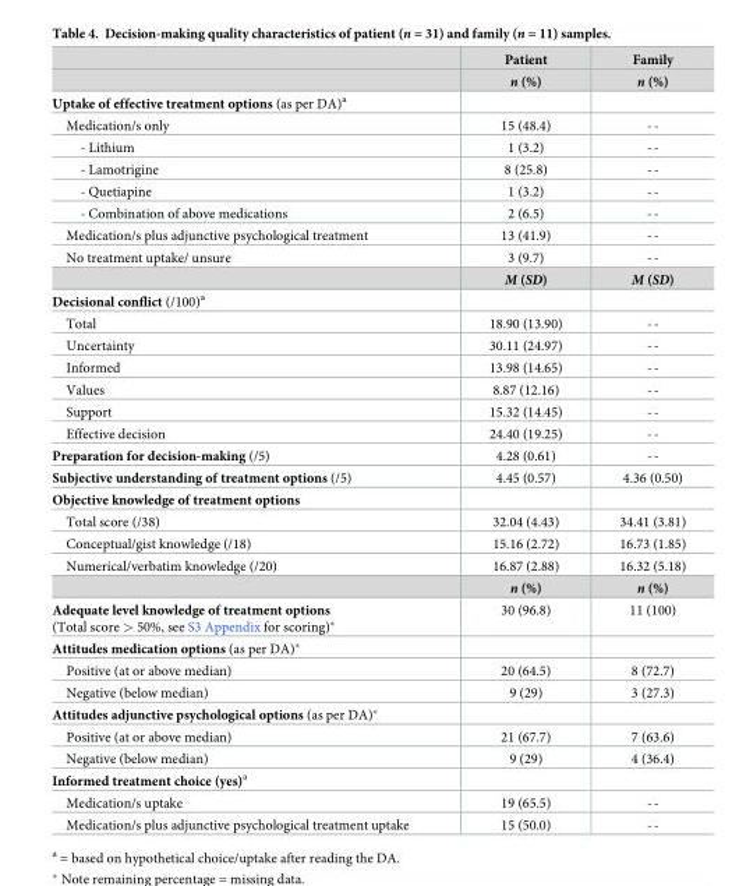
<table><thead><tr><td></td><td>Patient</td><td>Family</td></tr></thead><tbody><tr><td></td><td>n (%)</td><td>n (%)</td></tr><tr><td colspan="3">Uptake of effective treatment options (as per DA)<sup>a</sup></td></tr><tr><td>Medication/s only</td><td>15 (48.4)</td><td>--</td></tr><tr><td>- Lithium</td><td>1 (3.2)</td><td>--</td></tr><tr><td>- Lamotrigine</td><td>8 (25.8)</td><td>--</td></tr><tr><td>- Quetiapine</td><td>1 (3.2)</td><td>--</td></tr><tr><td>- Combination of above medications</td><td>2 (6.5)</td><td>--</td></tr><tr><td>Medication/s plus adjunctive psychological treatment</td><td>13 (41.9)</td><td>--</td></tr><tr><td rowspan="2">No treatment uptake/ unsure</td><td>3 (9.7)</td><td>--</td></tr><tr><td>M (SD)</td><td>M (SD)</td></tr><tr><td colspan="3">Decisional conflict (/100)<sup>a</sup></td></tr><tr><td>Total</td><td>18.90 (13.90)</td><td>--</td></tr><tr><td>Uncertainty</td><td>30.11 (24.97)</td><td>--</td></tr><tr><td>Informed</td><td>13.98 (14.65)</td><td>--</td></tr><tr><td>Values</td><td>8.87 (12.16)</td><td>--</td></tr><tr><td>Support</td><td>15.32 (14.45)</td><td>--</td></tr><tr><td>Effective decision</td><td>24.40 (19.25)</td><td>--</td></tr><tr><td>Preparation for decision-making (/5)</td><td>4.28 (0.61)</td><td>--</td></tr><tr><td>Subjective understanding of treatment options (/5)</td><td>4.45 (0.57)</td><td>4.36 (0.50)</td></tr><tr><td colspan="3">Objective knowledge of treatment options</td></tr><tr><td>Total score (/38)</td><td>32.04 (4.43)</td><td>34.41 (3.81)</td></tr><tr><td>Conceptual/gist knowledge (/18)</td><td>15.16 (2.72)</td><td>16.73 (1.85)</td></tr><tr><td rowspan="2">Numerical/verbatim knowledge (/20)</td><td>16.87 (2.88)</td><td>16.32 (5.18)</td></tr><tr><td>n (%)</td><td>n (%)</td></tr><tr><td>Adequate level knowledge of treatment options (Total score &gt; 50%, see S3 Appendix for scoring)*</td><td>30 (96.8)</td><td>11 (100)</td></tr><tr><td colspan="3">Attitudes medication options (as per DA)*</td></tr><tr><td>Positive (at or above median)</td><td>20 (64.5)</td><td>8 (72.7)</td></tr><tr><td>Negative (below median)</td><td>9 (29)</td><td>3 (27.3)</td></tr><tr><td colspan="3">Attitudes adjunctive psychological options (as per DA)*</td></tr><tr><td>Positive (at or above median)</td><td>21 (67.7)</td><td>7 (63.6)</td></tr><tr><td>Negative (below median)</td><td>9 (29)</td><td>4 (36.4)</td></tr><tr><td colspan="3">Informed treatment choice (yes)<sup>a</sup></td></tr><tr><td>Medication/s uptake</td><td>19 (65.5)</td><td>--</td></tr><tr><td>Medication/s plus adjunctive psychological treatment uptake</td><td>15 (50.0)</td><td>--</td></tr></tbody></table>